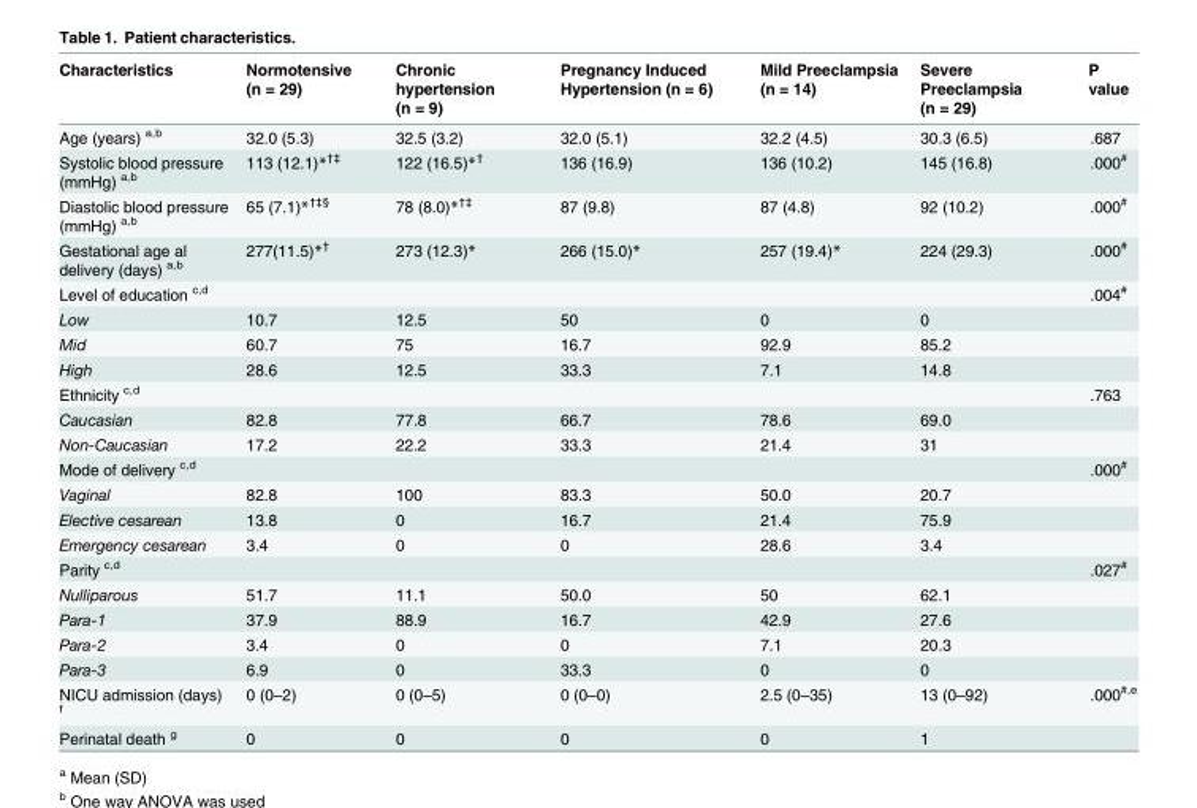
<table><thead><tr><td>Characteristics</td><td>Normotensive (n = 29)</td><td>Chronic hypertension (n = 9)</td><td>Pregnancy Induced Hypertension (n = 6)</td><td>Mild Preeclampsia (n = 14)</td><td>Severe Preeclampsia (n = 29)</td><td>P value</td></tr></thead><tbody><tr><td>Age (years) <sup>a,b</sup></td><td>32.0 (5.3)</td><td>32.5 (3.2)</td><td>32.0 (5.1)</td><td>32.2 (4.5)</td><td>30.3 (6.5)</td><td>.687</td></tr><tr><td>Systolic blood pressure (mmHg) <sup>a,b</sup></td><td>113 (12.1)*<sup>†‡</sup></td><td>122 (16.5)*<sup>†</sup></td><td>136 (16.9)</td><td>136 (10.2)</td><td>145 (16.8)</td><td>.000<sup>#</sup></td></tr><tr><td>Diastolic blood pressure (mmHg) <sup>a,b</sup></td><td>65 (7.1)*<sup>†‡§</sup></td><td>78 (8.0)*<sup>†‡</sup></td><td>87 (9.8)</td><td>87 (4.8)</td><td>92 (10.2)</td><td>.000<sup>#</sup></td></tr><tr><td>Gestational age al delivery (days) <sup>a,b</sup></td><td>277(11.5)*<sup>†</sup></td><td>273 (12.3)*</td><td>266 (15.0)*</td><td>257 (19.4)*</td><td>224 (29.3)</td><td>.000<sup>#</sup></td></tr><tr><td>Level of education <sup>c,d</sup></td><td></td><td></td><td></td><td></td><td></td><td>.004<sup>#</sup></td></tr><tr><td>Low</td><td>10.7</td><td>12.5</td><td>50</td><td>0</td><td>0</td><td></td></tr><tr><td>Mid</td><td>60.7</td><td>75</td><td>16.7</td><td>92.9</td><td>85.2</td><td></td></tr><tr><td>High</td><td>28.6</td><td>12.5</td><td>33.3</td><td>7.1</td><td>14.8</td><td></td></tr><tr><td>Ethnicity <sup>c,d</sup></td><td></td><td></td><td></td><td></td><td></td><td>.763</td></tr><tr><td>Caucasian</td><td>82.8</td><td>77.8</td><td>66.7</td><td>78.6</td><td>69.0</td><td></td></tr><tr><td>Non-Caucasian</td><td>17.2</td><td>22.2</td><td>33.3</td><td>21.4</td><td>31</td><td></td></tr><tr><td>Mode of delivery <sup>c,d</sup></td><td></td><td></td><td></td><td></td><td></td><td>.000<sup>#</sup></td></tr><tr><td>Vaginal</td><td>82.8</td><td>100</td><td>83.3</td><td>50.0</td><td>20.7</td><td></td></tr><tr><td>Elective cesarean</td><td>13.8</td><td>0</td><td>16.7</td><td>21.4</td><td>75.9</td><td></td></tr><tr><td>Emergency cesarean</td><td>3.4</td><td>0</td><td>0</td><td>28.6</td><td>3.4</td><td></td></tr><tr><td>Parity <sup>c,d</sup></td><td></td><td></td><td></td><td></td><td></td><td>.027<sup>#</sup></td></tr><tr><td>Nulliparous</td><td>51.7</td><td>11.1</td><td>50.0</td><td>50</td><td>62.1</td><td></td></tr><tr><td>Para-1</td><td>37.9</td><td>88.9</td><td>16.7</td><td>42.9</td><td>27.6</td><td></td></tr><tr><td>Para-2</td><td>3.4</td><td>0</td><td>0</td><td>7.1</td><td>20.3</td><td></td></tr><tr><td>Para-3</td><td>6.9</td><td>0</td><td>33.3</td><td>0</td><td>0</td><td></td></tr><tr><td>NICU admission (days) <sup>f</sup></td><td>0 (0–2)</td><td>0 (0–5)</td><td>0 (0–0)</td><td>2.5 (0–35)</td><td>13 (0–92)</td><td>.000<sup>#,e</sup></td></tr><tr><td>Perinatal death <sup>g</sup></td><td>0</td><td>0</td><td>0</td><td>0</td><td>1</td><td></td></tr></tbody></table>